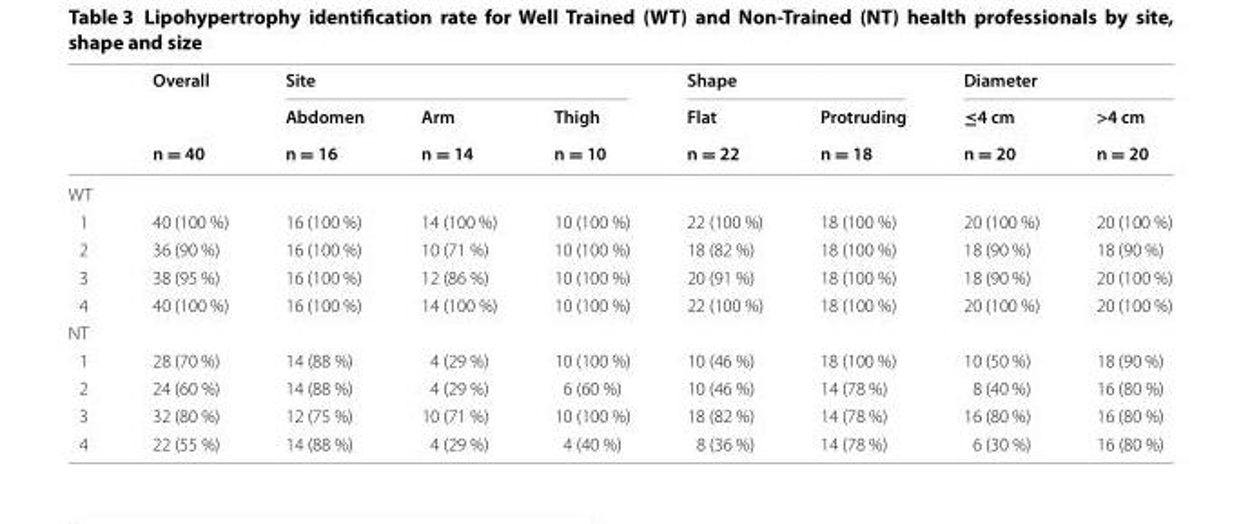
<table><thead><tr><td rowspan="3"></td><td rowspan="3">Overall n = 40</td><td colspan="3">Site</td><td colspan="2">Shape</td><td colspan="2">Diameter</td></tr><tr><td rowspan="2">Abdomen n = 16</td><td rowspan="2">Arm n = 14</td><td rowspan="2">Thigh n = 10</td><td rowspan="2">Flat n = 22</td><td rowspan="2">Protruding n = 18</td><td rowspan="2">≤4 cm n = 20</td><td rowspan="2">&gt;4 cm n = 20</td></tr><tr></tr></thead><tbody><tr><td colspan="9">WT</td></tr><tr><td>1</td><td>40 (100 %)</td><td>16 (100 %)</td><td>14 (100 %)</td><td>10 (100 %)</td><td>22 (100 %)</td><td>18 (100 %)</td><td>20 (100 %)</td><td>20 (100 %)</td></tr><tr><td>2</td><td>36 (90 %)</td><td>16 (100 %)</td><td>10 (71 %)</td><td>10 (100 %)</td><td>18 (82 %)</td><td>18 (100 %)</td><td>18 (90 %)</td><td>18 (90 %)</td></tr><tr><td>3</td><td>38 (95 %)</td><td>16 (100 %)</td><td>12 (86 %)</td><td>10 (100 %)</td><td>20 (91 %)</td><td>18 (100 %)</td><td>18 (90 %)</td><td>20 (100 %)</td></tr><tr><td>4</td><td>40 (100 %)</td><td>16 (100 %)</td><td>14 (100 %)</td><td>10 (100 %)</td><td>22 (100 %)</td><td>18 (100 %)</td><td>20 (100 %)</td><td>20 (100 %)</td></tr><tr><td colspan="9">NT</td></tr><tr><td>1</td><td>28 (70 %)</td><td>14 (88 %)</td><td>4 (29 %)</td><td>10 (100 %)</td><td>10 (46 %)</td><td>18 (100 %)</td><td>10 (50 %)</td><td>18 (90 %)</td></tr><tr><td>2</td><td>24 (60 %)</td><td>14 (88 %)</td><td>4 (29 %)</td><td>6 (60 %)</td><td>10 (46 %)</td><td>14 (78 %)</td><td>8 (40 %)</td><td>16 (80 %)</td></tr><tr><td>3</td><td>32 (80 %)</td><td>12 (75 %)</td><td>10 (71 %)</td><td>10 (100 %)</td><td>18 (82 %)</td><td>14 (78 %)</td><td>16 (80 %)</td><td>16 (80 %)</td></tr><tr><td>4</td><td>22 (55 %)</td><td>14 (88 %)</td><td>4 (29 %)</td><td>4 (40 %)</td><td>8 (36 %)</td><td>14 (78 %)</td><td>6 (30 %)</td><td>16 (80 %)</td></tr></tbody></table>